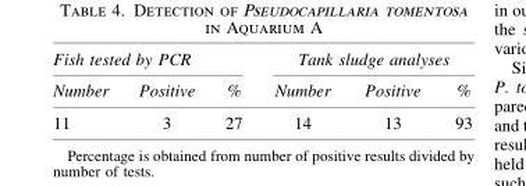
<table><thead><tr><td colspan="3">Fish tested by PCR</td><td colspan="3">Tank sludge analyses</td></tr><tr><td>Number</td><td>Positive</td><td>%</td><td>Number</td><td>Positive</td><td>%</td></tr></thead><tbody><tr><td>11</td><td>3</td><td>27</td><td>14</td><td>13</td><td>93</td></tr></tbody></table>